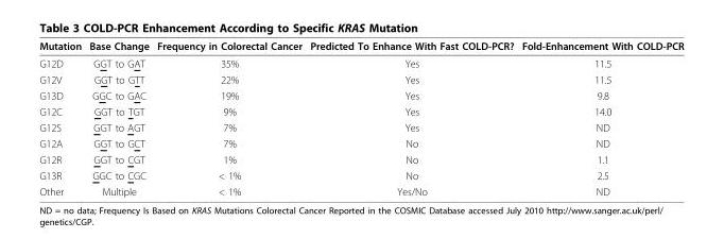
<table><thead><tr><td>Mutation</td><td>Base Change</td><td>Frequency in Colorectal Cancer</td><td>Predicted To Enhance With Fast COLD-PCR?</td><td>Fold-Enhancement With COLD-PCR</td></tr></thead><tbody><tr><td>G12D</td><td>GGT to GAT</td><td>35%</td><td>Yes</td><td>11.5</td></tr><tr><td>G12V</td><td>GGT to GTT</td><td>22%</td><td>Yes</td><td>11.5</td></tr><tr><td>G13D</td><td>GGC to GAC</td><td>19%</td><td>Yes</td><td>9.8</td></tr><tr><td>G12C</td><td>GGT to TGT</td><td>9%</td><td>Yes</td><td>14.0</td></tr><tr><td>G12S</td><td>GGT to AGT</td><td>7%</td><td>Yes</td><td>ND</td></tr><tr><td>G12A</td><td>GGT to GCT</td><td>7%</td><td>No</td><td>ND</td></tr><tr><td>G12R</td><td>GGT to CGT</td><td>1%</td><td>No</td><td>1.1</td></tr><tr><td>G13R</td><td>GGC to CGC</td><td>&lt; 1%</td><td>No</td><td>2.5</td></tr><tr><td>Other</td><td>Multiple</td><td>&lt; 1%</td><td>Yes/No</td><td>ND</td></tr></tbody></table>